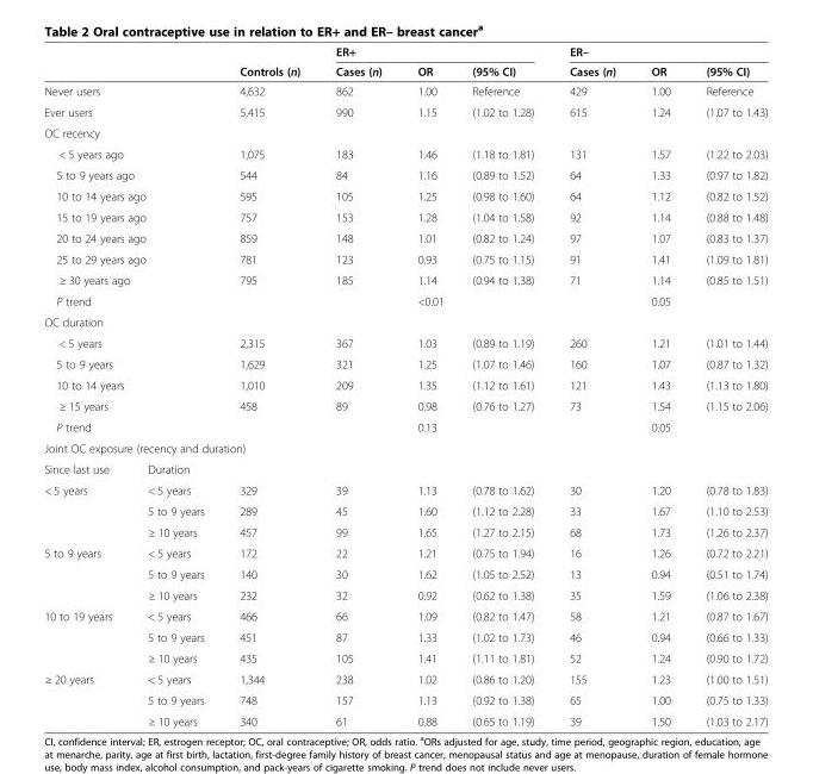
<table><thead><tr><td rowspan="2"></td><td rowspan="2"></td><td rowspan="2">Controls (n)</td><td colspan="3">ER+</td><td colspan="3">ER–</td></tr><tr><td>Cases (n)</td><td>OR</td><td>(95% CI)</td><td>Cases (n)</td><td>OR</td><td>(95% CI)</td></tr></thead><tbody><tr><td colspan="2">Never users</td><td>4,632</td><td>862</td><td>1.00</td><td>Reference</td><td>429</td><td>1.00</td><td>Reference</td></tr><tr><td colspan="2">Ever users</td><td>5,415</td><td>990</td><td>1.15</td><td>(1.02 to 1.28)</td><td>615</td><td>1.24</td><td>(1.07 to 1.43)</td></tr><tr><td colspan="9">OC recency</td></tr><tr><td colspan="2">&lt; 5 years ago</td><td>1,075</td><td>183</td><td>1.46</td><td>(1.18 to 1.81)</td><td>131</td><td>1.57</td><td>(1.22 to 2.03)</td></tr><tr><td colspan="2">5 to 9 years ago</td><td>544</td><td>84</td><td>1.16</td><td>(0.89 to 1.52)</td><td>64</td><td>1.33</td><td>(0.97 to 1.82)</td></tr><tr><td colspan="2">10 to 14 years ago</td><td>595</td><td>105</td><td>1.25</td><td>(0.98 to 1.60)</td><td>64</td><td>1.12</td><td>(0.82 to 1.52)</td></tr><tr><td colspan="2">15 to 19 years ago</td><td>757</td><td>153</td><td>1.28</td><td>(1.04 to 1.58)</td><td>92</td><td>1.14</td><td>(0.88 to 1.48)</td></tr><tr><td colspan="2">20 to 24 years ago</td><td>859</td><td>148</td><td>1.01</td><td>(0.82 to 1.24)</td><td>97</td><td>1.07</td><td>(0.83 to 1.37)</td></tr><tr><td colspan="2">25 to 29 years ago</td><td>781</td><td>123</td><td>0.93</td><td>(0.75 to 1.15)</td><td>91</td><td>1.41</td><td>(1.09 to 1.81)</td></tr><tr><td colspan="2">≥ 30 years ago</td><td>795</td><td>185</td><td>1.14</td><td>(0.94 to 1.38)</td><td>71</td><td>1.14</td><td>(0.85 to 1.51)</td></tr><tr><td colspan="2">P trend</td><td></td><td></td><td colspan="2">&lt;0.01</td><td></td><td colspan="2">0.05</td></tr><tr><td colspan="9">OC duration</td></tr><tr><td colspan="2">&lt; 5 years</td><td>2,315</td><td>367</td><td>1.03</td><td>(0.89 to 1.19)</td><td>260</td><td>1.21</td><td>(1.01 to 1.44)</td></tr><tr><td colspan="2">5 to 9 years</td><td>1,629</td><td>321</td><td>1.25</td><td>(1.07 to 1.46)</td><td>160</td><td>1.07</td><td>(0.87 to 1.32)</td></tr><tr><td colspan="2">10 to 14 years</td><td>1,010</td><td>209</td><td>1.35</td><td>(1.12 to 1.61)</td><td>121</td><td>1.43</td><td>(1.13 to 1.80)</td></tr><tr><td colspan="2">≥ 15 years</td><td>458</td><td>89</td><td>0.98</td><td>(0.76 to 1.27)</td><td>73</td><td>1.54</td><td>(1.15 to 2.06)</td></tr><tr><td colspan="2">P trend</td><td></td><td></td><td colspan="2">0.13</td><td></td><td colspan="2">0.05</td></tr><tr><td colspan="9">Joint OC exposure (recency and duration)</td></tr><tr><td>Since last use</td><td>Duration</td><td></td><td></td><td></td><td></td><td></td><td></td><td></td></tr><tr><td rowspan="3">&lt; 5 years</td><td>&lt; 5 years</td><td>329</td><td>39</td><td>1.13</td><td>(0.78 to 1.62)</td><td>30</td><td>1.20</td><td>(0.78 to 1.83)</td></tr><tr><td>5 to 9 years</td><td>289</td><td>45</td><td>1.60</td><td>(1.12 to 2.28)</td><td>33</td><td>1.67</td><td>(1.10 to 2.53)</td></tr><tr><td>≥ 10 years</td><td>457</td><td>99</td><td>1.65</td><td>(1.27 to 2.15)</td><td>68</td><td>1.73</td><td>(1.26 to 2.37)</td></tr><tr><td rowspan="3">5 to 9 years</td><td>&lt; 5 years</td><td>172</td><td>22</td><td>1.21</td><td>(0.75 to 1.94)</td><td>16</td><td>1.26</td><td>(0.72 to 2.21)</td></tr><tr><td>5 to 9 years</td><td>140</td><td>30</td><td>1.62</td><td>(1.05 to 2.52)</td><td>13</td><td>0.94</td><td>(0.51 to 1.74)</td></tr><tr><td>≥ 10 years</td><td>232</td><td>32</td><td>0.92</td><td>(0.62 to 1.38)</td><td>35</td><td>1.59</td><td>(1.06 to 2.38)</td></tr><tr><td rowspan="3">10 to 19 years</td><td>&lt; 5 years</td><td>466</td><td>66</td><td>1.09</td><td>(0.82 to 1.47)</td><td>58</td><td>1.21</td><td>(0.87 to 1.67)</td></tr><tr><td>5 to 9 years</td><td>451</td><td>87</td><td>1.33</td><td>(1.02 to 1.73)</td><td>46</td><td>0.94</td><td>(0.66 to 1.33)</td></tr><tr><td>≥ 10 years</td><td>435</td><td>105</td><td>1.41</td><td>(1.11 to 1.81)</td><td>52</td><td>1.24</td><td>(0.90 to 1.72)</td></tr><tr><td rowspan="3">≥ 20 years</td><td>&lt; 5 years</td><td>1,344</td><td>238</td><td>1.02</td><td>(0.86 to 1.20)</td><td>155</td><td>1.23</td><td>(1.00 to 1.51)</td></tr><tr><td>5 to 9 years</td><td>748</td><td>157</td><td>1.13</td><td>(0.92 to 1.38)</td><td>65</td><td>1.00</td><td>(0.75 to 1.33)</td></tr><tr><td>≥ 10 years</td><td>340</td><td>61</td><td>0.88</td><td>(0.65 to 1.19)</td><td>39</td><td>1.50</td><td>(1.03 to 2.17)</td></tr></tbody></table>